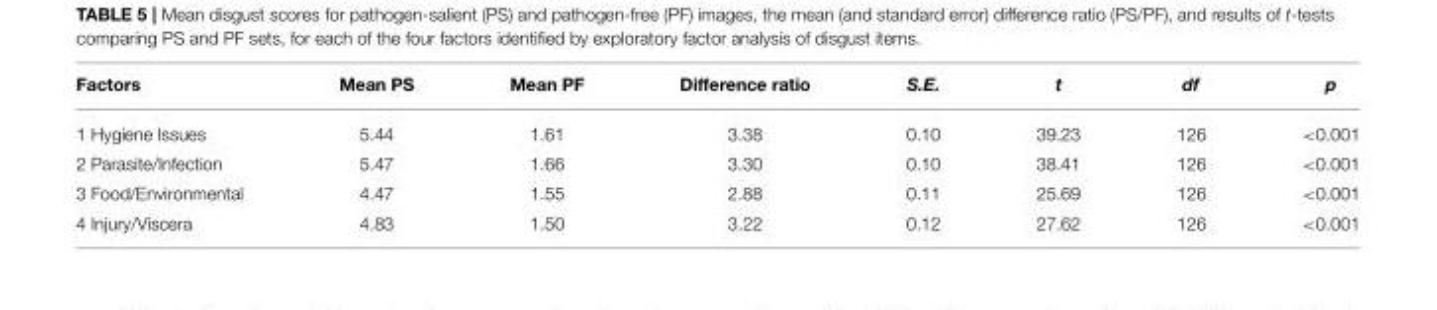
<table><thead><tr><td>Factors</td><td>Mean PS</td><td>Mean PF</td><td>Difference ratio</td><td>S.E.</td><td>t</td><td>df</td><td>p</td></tr></thead><tbody><tr><td>1 Hygiene Issues</td><td>5.44</td><td>1.61</td><td>3.38</td><td>0.10</td><td>39.23</td><td>126</td><td>&lt;0.001</td></tr><tr><td>2 Parasite/Infection</td><td>5.47</td><td>1.66</td><td>3.30</td><td>0.10</td><td>38.41</td><td>126</td><td>&lt;0.001</td></tr><tr><td>3 Food/Environmental</td><td>4.47</td><td>1.55</td><td>2.88</td><td>0.11</td><td>25.69</td><td>126</td><td>&lt;0.001</td></tr><tr><td>4 Injury/Viscera</td><td>4.83</td><td>1.50</td><td>3.22</td><td>0.12</td><td>27.62</td><td>126</td><td>&lt;0.001</td></tr></tbody></table>